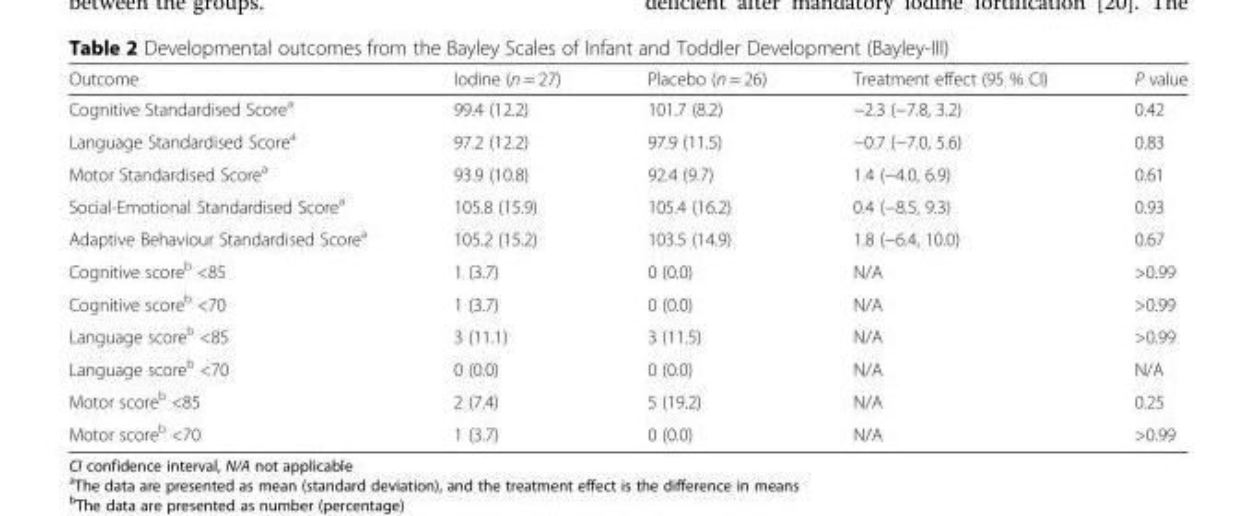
<table><thead><tr><td>Outcome</td><td>Iodine (n = 27)</td><td>Placebo (n = 26)</td><td>Treatment effect (95 % CI)</td><td>P value</td></tr></thead><tbody><tr><td>Cognitive Standardised Score<sup>a</sup></td><td>99.4 (12.2)</td><td>101.7 (8.2)</td><td>−2.3 (−7.8, 3.2)</td><td>0.42</td></tr><tr><td>Language Standardised Score<sup>a</sup></td><td>97.2 (12.2)</td><td>97.9 (11.5)</td><td>−0.7 (−7.0, 5.6)</td><td>0.83</td></tr><tr><td>Motor Standardised Score<sup>a</sup></td><td>93.9 (10.8)</td><td>92.4 (9.7)</td><td>1.4 (−4.0, 6.9)</td><td>0.61</td></tr><tr><td>Social-Emotional Standardised Score<sup>a</sup></td><td>105.8 (15.9)</td><td>105.4 (16.2)</td><td>0.4 (−8.5, 9.3)</td><td>0.93</td></tr><tr><td>Adaptive Behaviour Standardised Score<sup>a</sup></td><td>105.2 (15.2)</td><td>103.5 (14.9)</td><td>1.8 (−6.4, 10.0)</td><td>0.67</td></tr><tr><td>Cognitive score<sup>b</sup> &lt;85</td><td>1 (3.7)</td><td>0 (0.0)</td><td>N/A</td><td>&gt;0.99</td></tr><tr><td>Cognitive score<sup>b</sup> &lt;70</td><td>1 (3.7)</td><td>0 (0.0)</td><td>N/A</td><td>&gt;0.99</td></tr><tr><td>Language score<sup>b</sup> &lt;85</td><td>3 (11.1)</td><td>3 (11.5)</td><td>N/A</td><td>&gt;0.99</td></tr><tr><td>Language score<sup>b</sup> &lt;70</td><td>0 (0.0)</td><td>0 (0.0)</td><td>N/A</td><td>N/A</td></tr><tr><td>Motor score<sup>b</sup> &lt;85</td><td>2 (7.4)</td><td>5 (19.2)</td><td>N/A</td><td>0.25</td></tr><tr><td>Motor score<sup>b</sup> &lt;70</td><td>1 (3.7)</td><td>0 (0.0)</td><td>N/A</td><td>&gt;0.99</td></tr></tbody></table>